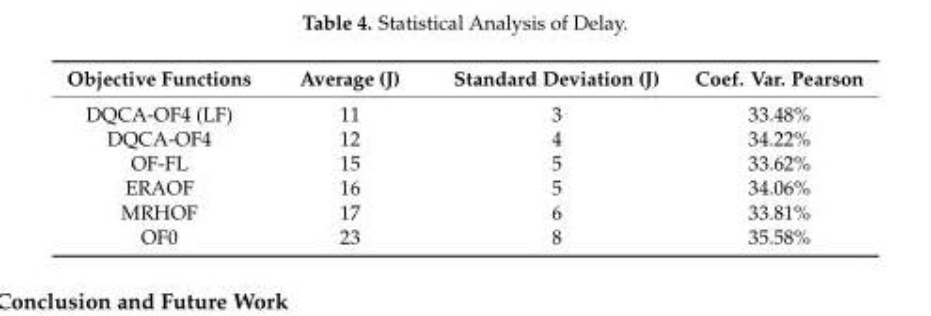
<table><thead><tr><td>Objective Functions</td><td>Average (J)</td><td>Standard Deviation (J)</td><td>Coef. Var. Pearson</td></tr></thead><tbody><tr><td>DQCA-OF4 (LF)</td><td>11</td><td>3</td><td>33.48%</td></tr><tr><td>DQCA-OF4</td><td>12</td><td>4</td><td>34.22%</td></tr><tr><td>OF-FL</td><td>15</td><td>5</td><td>33.62%</td></tr><tr><td>ERAOF</td><td>16</td><td>5</td><td>34.06%</td></tr><tr><td>MRHOF</td><td>17</td><td>6</td><td>33.81%</td></tr><tr><td>OF0</td><td>23</td><td>8</td><td>35.58%</td></tr></tbody></table>